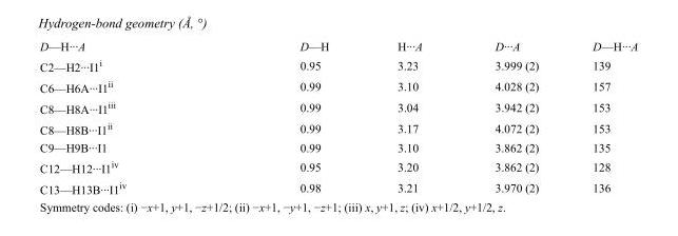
<table><tbody><tr><td>D—H···A</td><td>D—H</td><td>H···A</td><td>D···A</td><td>D—H···A</td></tr><tr><td>C2—H2···I1<sup>i</sup></td><td>0.95</td><td>3.23</td><td>3.999 (2)</td><td>139</td></tr><tr><td>C6—H6A···I1<sup>ii</sup></td><td>0.99</td><td>3.10</td><td>4.028 (2)</td><td>157</td></tr><tr><td>C8—H8A···I1<sup>iii</sup></td><td>0.99</td><td>3.04</td><td>3.942 (2)</td><td>153</td></tr><tr><td>C8—H8B···I1<sup>ii</sup></td><td>0.99</td><td>3.17</td><td>4.072 (2)</td><td>153</td></tr><tr><td>C9—H9B···I1</td><td>0.99</td><td>3.10</td><td>3.862 (2)</td><td>135</td></tr><tr><td>C12—H12···I1<sup>iv</sup></td><td>0.95</td><td>3.20</td><td>3.862 (2)</td><td>128</td></tr><tr><td>C13—H13B···I1<sup>iv</sup></td><td>0.98</td><td>3.21</td><td>3.970 (2)</td><td>136</td></tr></tbody></table>